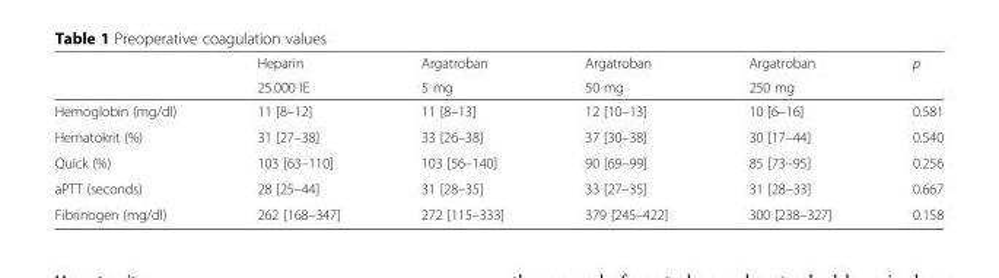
<table><thead><tr><td rowspan="2"></td><td rowspan="2">Heparin 25.000 IE</td><td rowspan="2">Argatroban 5 mg</td><td rowspan="2">Argatroban 50 mg</td><td rowspan="2">Argatroban 250 mg</td><td rowspan="2">p</td></tr><tr></tr></thead><tbody><tr><td>Hemoglobin (mg/dl)</td><td>11 [8–12]</td><td>11 [8–13]</td><td>12 [10–13]</td><td>10 [6–16]</td><td>0.581</td></tr><tr><td>Hematokrit (%)</td><td>31 [27–38]</td><td>33 [26–38]</td><td>37 [30–38]</td><td>30 [17–44]</td><td>0.540</td></tr><tr><td>Quick (%)</td><td>103 [63–110]</td><td>103 [56–140]</td><td>90 [69–99]</td><td>85 [73–95]</td><td>0.256</td></tr><tr><td>aPTT (seconds)</td><td>28 [25–44]</td><td>31 [28–35]</td><td>33 [27–35]</td><td>31 [28–33]</td><td>0.667</td></tr><tr><td>Fibrinogen (mg/dl)</td><td>262 [168–347]</td><td>272 [115–333]</td><td>379 [245–422]</td><td>300 [238–327]</td><td>0.158</td></tr></tbody></table>